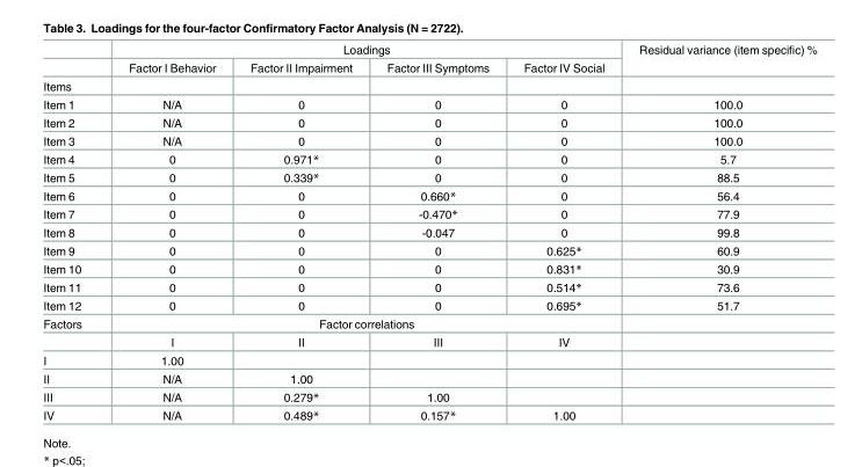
<table><thead><tr><td rowspan="2"></td><td colspan="4">Loadings</td><td rowspan="2">Residual variance (item specific) %</td></tr><tr><td>Factor I Behavior</td><td>Factor II Impairment</td><td>Factor III Symptoms</td><td>Factor IV Social</td></tr></thead><tbody><tr><td colspan="6">Items</td></tr><tr><td>Item 1</td><td>N/A</td><td>0</td><td>0</td><td>0</td><td>100.0</td></tr><tr><td>Item 2</td><td>N/A</td><td>0</td><td>0</td><td>0</td><td>100.0</td></tr><tr><td>Item 3</td><td>N/A</td><td>0</td><td>0</td><td>0</td><td>100.0</td></tr><tr><td>Item 4</td><td>0</td><td>0.971*</td><td>0</td><td>0</td><td>5.7</td></tr><tr><td>Item 5</td><td>0</td><td>0.339*</td><td>0</td><td>0</td><td>88.5</td></tr><tr><td>Item 6</td><td>0</td><td>0</td><td>0.660*</td><td>0</td><td>56.4</td></tr><tr><td>Item 7</td><td>0</td><td>0</td><td>-0.470*</td><td>0</td><td>77.9</td></tr><tr><td>Item 8</td><td>0</td><td>0</td><td>-0.047</td><td>0</td><td>99.8</td></tr><tr><td>Item 9</td><td>0</td><td>0</td><td>0</td><td>0.625*</td><td>60.9</td></tr><tr><td>Item 10</td><td>0</td><td>0</td><td>0</td><td>0.831*</td><td>30.9</td></tr><tr><td>Item 11</td><td>0</td><td>0</td><td>0</td><td>0.514*</td><td>73.6</td></tr><tr><td>Item 12</td><td>0</td><td>0</td><td>0</td><td>0.695*</td><td>51.7</td></tr><tr><td rowspan="2">Factors</td><td colspan="4">Factor correlations</td><td></td></tr><tr><td>I</td><td>II</td><td>III</td><td>IV</td><td></td></tr><tr><td>I</td><td>1.00</td><td></td><td></td><td></td><td></td></tr><tr><td>II</td><td>N/A</td><td>1.00</td><td></td><td></td><td></td></tr><tr><td>III</td><td>N/A</td><td>0.279*</td><td>1.00</td><td></td><td></td></tr><tr><td>IV</td><td>N/A</td><td>0.489*</td><td>0.157*</td><td>1.00</td><td></td></tr></tbody></table>